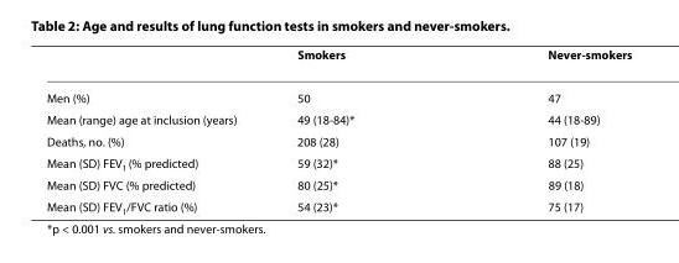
<table><thead><tr><td></td><td>Smokers</td><td>Never-smokers</td></tr></thead><tbody><tr><td>Men (%)</td><td>50</td><td>47</td></tr><tr><td>Mean (range) age at inclusion (years)</td><td>49 (18-84)*</td><td>44 (18-89)</td></tr><tr><td>Deaths, no. (%)</td><td>208 (28)</td><td>107 (19)</td></tr><tr><td>Mean (SD) FEV<sub>1</sub> (% predicted)</td><td>59 (32)*</td><td>88 (25)</td></tr><tr><td>Mean (SD) FVC (% predicted)</td><td>80 (25)*</td><td>89 (18)</td></tr><tr><td>Mean (SD) FEV<sub>1</sub>/FVC ratio (%)</td><td>54 (23)*</td><td>75 (17)</td></tr></tbody></table>